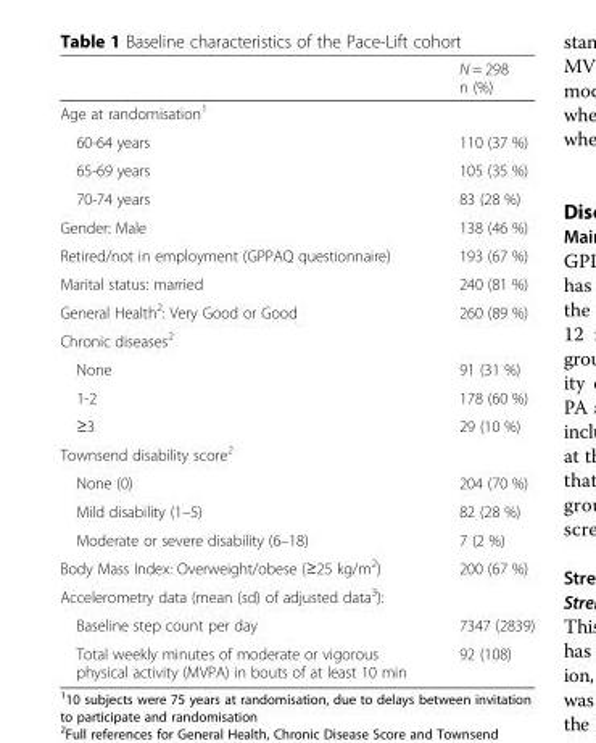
<table><thead><tr><td></td><td>N = 298 n (%)</td></tr></thead><tbody><tr><td colspan="2">Age at randomisation<sup>1</sup></td></tr><tr><td>60-64 years</td><td>110 (37 %)</td></tr><tr><td>65-69 years</td><td>105 (35 %)</td></tr><tr><td>70-74 years</td><td>83 (28 %)</td></tr><tr><td>Gender: Male</td><td>138 (46 %)</td></tr><tr><td>Retired/not in employment (GPPAQ questionnaire)</td><td>193 (67 %)</td></tr><tr><td>Marital status: married</td><td>240 (81 %)</td></tr><tr><td>General Health<sup>2</sup>: Very Good or Good</td><td>260 (89 %)</td></tr><tr><td colspan="2">Chronic diseases<sup>2</sup></td></tr><tr><td>None</td><td>91 (31 %)</td></tr><tr><td>1-2</td><td>178 (60 %)</td></tr><tr><td>≥3</td><td>29 (10 %)</td></tr><tr><td colspan="2">Townsend disability score<sup>2</sup></td></tr><tr><td>None (0)</td><td>204 (70 %)</td></tr><tr><td>Mild disability (1–5)</td><td>82 (28 %)</td></tr><tr><td>Moderate or severe disability (6–18)</td><td>7 (2 %)</td></tr><tr><td>Body Mass Index: Overweight/obese (≥25 kg/m<sup>2</sup>)</td><td>200 (67 %)</td></tr><tr><td colspan="2">Accelerometry data (mean (sd) of adjusted data<sup>3</sup>):</td></tr><tr><td>Baseline step count per day</td><td>7347 (2839)</td></tr><tr><td>Total weekly minutes of moderate or vigorous physical activity (MVPA) in bouts of at least 10 min</td><td>92 (108)</td></tr></tbody></table>